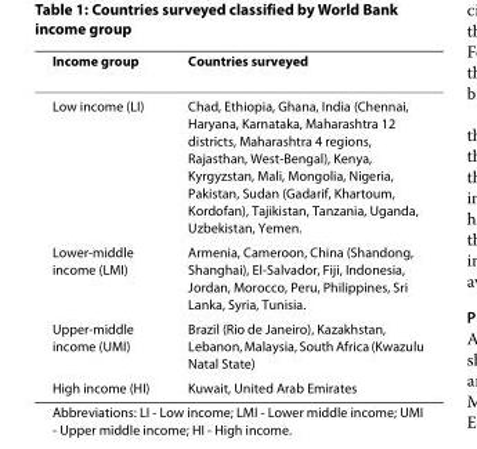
<table><thead><tr><td>Income group</td><td>Countries surveyed</td></tr></thead><tbody><tr><td>Low income (LI)</td><td>Chad, Ethiopia, Ghana, India (Chennai, Haryana, Karnataka, Maharashtra 12 districts, Maharashtra 4 regions, Rajasthan, West-Bengal), Kenya, Kyrgyzstan, Mali, Mongolia, Nigeria, Pakistan, Sudan (Gadarif, Khartoum, Kordofan), Tajikistan, Tanzania, Uganda, Uzbekistan, Yemen.</td></tr><tr><td>Lower-middle income (LMI)</td><td>Armenia, Cameroon, China (Shandong, Shanghai), El-Salvador, Fiji, Indonesia, Jordan, Morocco, Peru, Philippines, Sri Lanka, Syria, Tunisia.</td></tr><tr><td>Upper-middle income (UMI)</td><td>Brazil (Rio de Janeiro), Kazakhstan, Lebanon, Malaysia, South Africa (Kwazulu Natal State)</td></tr><tr><td>High income (HI)</td><td>Kuwait, United Arab Emirates</td></tr></tbody></table>